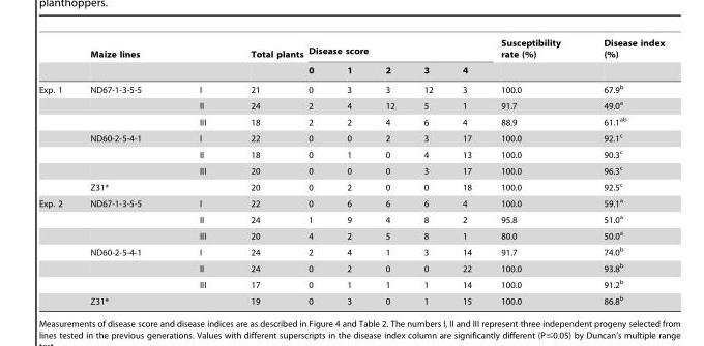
<table><thead><tr><td rowspan="2"></td><td colspan="2">Maize lines</td><td rowspan="2">Total plants</td><td colspan="5">Disease score</td><td rowspan="2">Susceptibility rate (%)</td><td rowspan="2">Disease index (%)</td></tr><tr><td></td><td></td><td>0</td><td>1</td><td>2</td><td>3</td><td>4</td></tr></thead><tbody><tr><td rowspan="7">Exp. 1</td><td>ND67-1-3-5-5</td><td>I</td><td>21</td><td>0</td><td>3</td><td>3</td><td>12</td><td>3</td><td>100.0</td><td>67.9<sup>b</sup></td></tr><tr><td></td><td>II</td><td>24</td><td>2</td><td>4</td><td>12</td><td>5</td><td>1</td><td>91.7</td><td>49.0<sup>a</sup></td></tr><tr><td></td><td>III</td><td>18</td><td>2</td><td>2</td><td>4</td><td>6</td><td>4</td><td>88.9</td><td>61.1<sup>ab</sup></td></tr><tr><td>ND60-2-5-4-1</td><td>I</td><td>22</td><td>0</td><td>0</td><td>2</td><td>3</td><td>17</td><td>100.0</td><td>92.1<sup>c</sup></td></tr><tr><td></td><td>II</td><td>18</td><td>0</td><td>1</td><td>0</td><td>4</td><td>13</td><td>100.0</td><td>90.3<sup>c</sup></td></tr><tr><td></td><td>III</td><td>20</td><td>0</td><td>0</td><td>0</td><td>3</td><td>17</td><td>100.0</td><td>96.3<sup>c</sup></td></tr><tr><td>Z31*</td><td></td><td>20</td><td>0</td><td>2</td><td>0</td><td>0</td><td>18</td><td>100.0</td><td>92.5<sup>c</sup></td></tr><tr><td rowspan="7">Exp. 2</td><td>ND67-1-3-5-5</td><td>I</td><td>22</td><td>0</td><td>6</td><td>6</td><td>6</td><td>4</td><td>100.0</td><td>59.1<sup>a</sup></td></tr><tr><td></td><td>II</td><td>24</td><td>1</td><td>9</td><td>4</td><td>8</td><td>2</td><td>95.8</td><td>51.0<sup>a</sup></td></tr><tr><td></td><td>III</td><td>20</td><td>4</td><td>2</td><td>5</td><td>8</td><td>1</td><td>80.0</td><td>50.0<sup>a</sup></td></tr><tr><td>ND60-2-5-4-1</td><td>I</td><td>24</td><td>2</td><td>4</td><td>1</td><td>3</td><td>14</td><td>91.7</td><td>74.0<sup>b</sup></td></tr><tr><td></td><td>II</td><td>24</td><td>0</td><td>2</td><td>0</td><td>0</td><td>22</td><td>100.0</td><td>93.8<sup>b</sup></td></tr><tr><td></td><td>III</td><td>17</td><td>0</td><td>1</td><td>1</td><td>1</td><td>14</td><td>100.0</td><td>91.2<sup>b</sup></td></tr><tr><td>Z31*</td><td></td><td>19</td><td>0</td><td>3</td><td>0</td><td>1</td><td>15</td><td>100.0</td><td>86.8<sup>b</sup></td></tr></tbody></table>